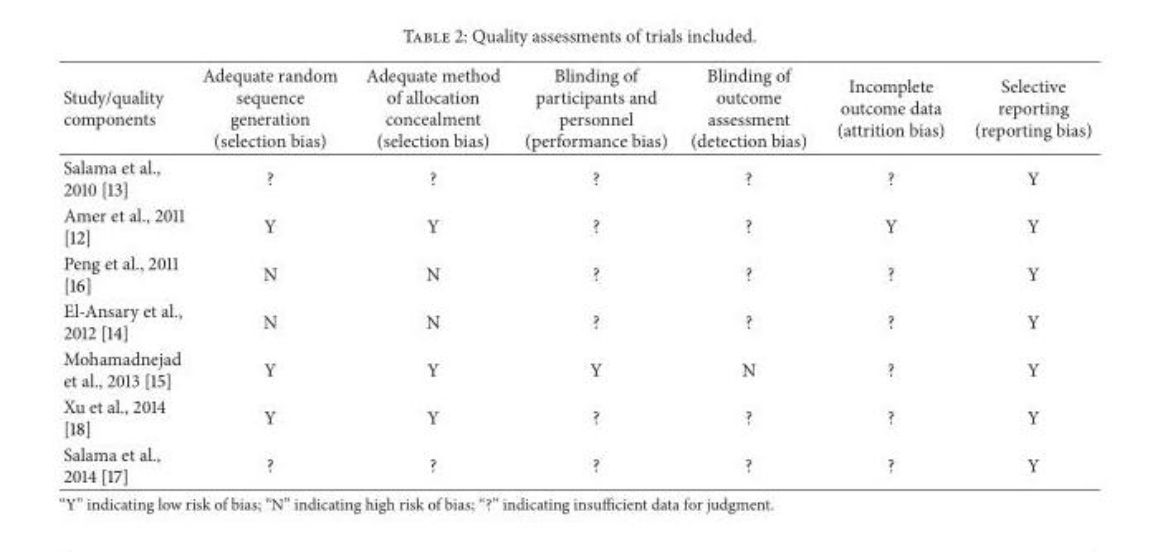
<table><thead><tr><td>Study/quality components</td><td>Adequate random sequence generation (selection bias)</td><td>Adequate method of allocation concealment (selection bias)</td><td>Blinding of participants and personnel (performance bias)</td><td>Blinding of outcome assessment (detection bias)</td><td>Incomplete outcome data (attrition bias)</td><td>Selective reporting (reporting bias)</td></tr></thead><tbody><tr><td>Salama et al., 2010 [13]</td><td>?</td><td>?</td><td>?</td><td>?</td><td>?</td><td>Y</td></tr><tr><td>Amer et al., 2011 [12]</td><td>Y</td><td>Y</td><td>?</td><td>?</td><td>Y</td><td>Y</td></tr><tr><td>Peng et al., 2011 [16]</td><td>N</td><td>N</td><td>?</td><td>?</td><td>?</td><td>Y</td></tr><tr><td>El-Ansary et al., 2012 [14]</td><td>N</td><td>N</td><td>?</td><td>?</td><td>?</td><td>Y</td></tr><tr><td>Mohamadnejad et al., 2013 [15]</td><td>Y</td><td>Y</td><td>Y</td><td>N</td><td>?</td><td>Y</td></tr><tr><td>Xu et al., 2014 [18]</td><td>Y</td><td>Y</td><td>?</td><td>?</td><td>?</td><td>Y</td></tr><tr><td>Salama et al., 2014 [17]</td><td>?</td><td>?</td><td>?</td><td>?</td><td>?</td><td>Y</td></tr></tbody></table>